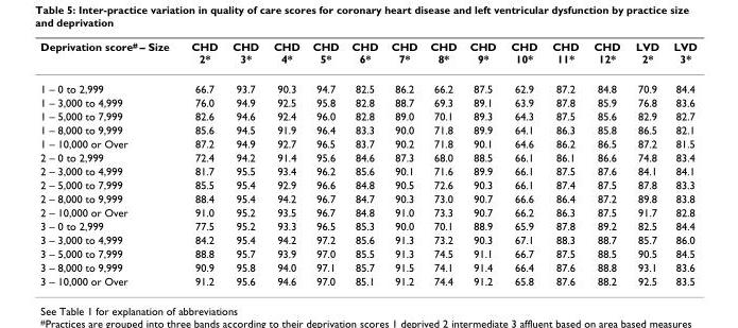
<table><thead><tr><td>Deprivation score<sup>#</sup> – Size</td><td>CHD 2*</td><td>CHD 3*</td><td>CHD 4*</td><td>CHD 5*</td><td>CHD 6*</td><td>CHD 7*</td><td>CHD 8*</td><td>CHD 9*</td><td>CHD 10*</td><td>CHD 11*</td><td>CHD 12*</td><td>LVD 2*</td><td>LVD 3*</td></tr></thead><tbody><tr><td>1 – 0 to 2,999</td><td>66.7</td><td>93.7</td><td>90.3</td><td>94.7</td><td>82.5</td><td>86.2</td><td>66.2</td><td>87.5</td><td>62.9</td><td>87.2</td><td>84.8</td><td>70.9</td><td>84.4</td></tr><tr><td>1 – 3,000 to 4,999</td><td>76.0</td><td>94.9</td><td>92.5</td><td>95.8</td><td>82.8</td><td>88.7</td><td>69.3</td><td>89.1</td><td>63.9</td><td>87.8</td><td>85.9</td><td>76.8</td><td>83.6</td></tr><tr><td>1 – 5,000 to 7,999</td><td>82.6</td><td>94.6</td><td>92.4</td><td>96.0</td><td>82.8</td><td>89.0</td><td>70.1</td><td>89.3</td><td>64.3</td><td>87.5</td><td>85.6</td><td>82.9</td><td>82.7</td></tr><tr><td>1 – 8,000 to 9,999</td><td>85.6</td><td>94.5</td><td>91.9</td><td>96.4</td><td>83.3</td><td>90.0</td><td>71.8</td><td>89.9</td><td>64.1</td><td>86.3</td><td>85.8</td><td>86.5</td><td>82.1</td></tr><tr><td>1 – 10,000 or Over</td><td>87.2</td><td>94.9</td><td>92.7</td><td>96.5</td><td>83.7</td><td>90.2</td><td>71.8</td><td>90.1</td><td>64.6</td><td>86.2</td><td>86.5</td><td>87.2</td><td>81.5</td></tr><tr><td>2 – 0 to 2,999</td><td>72.4</td><td>94.2</td><td>91.4</td><td>95.6</td><td>84.6</td><td>87.3</td><td>68.0</td><td>88.5</td><td>66.1</td><td>86.1</td><td>86.6</td><td>74.8</td><td>83.4</td></tr><tr><td>2 – 3,000 to 4,999</td><td>81.7</td><td>95.5</td><td>93.4</td><td>96.2</td><td>85.6</td><td>90.1</td><td>71.6</td><td>89.9</td><td>66.1</td><td>87.5</td><td>87.6</td><td>84.1</td><td>84.1</td></tr><tr><td>2 – 5,000 to 7,999</td><td>85.5</td><td>95.4</td><td>92.9</td><td>96.6</td><td>84.8</td><td>90.5</td><td>72.6</td><td>90.3</td><td>66.1</td><td>87.4</td><td>87.5</td><td>87.8</td><td>83.3</td></tr><tr><td>2 – 8,000 to 9,999</td><td>88.4</td><td>95.4</td><td>94.2</td><td>96.7</td><td>84.7</td><td>90.3</td><td>73.0</td><td>90.7</td><td>66.6</td><td>86.4</td><td>87.2</td><td>89.8</td><td>83.8</td></tr><tr><td>2 – 10,000 or Over</td><td>91.0</td><td>95.2</td><td>93.5</td><td>96.7</td><td>84.8</td><td>91.0</td><td>73.3</td><td>90.7</td><td>66.2</td><td>86.3</td><td>87.5</td><td>91.7</td><td>82.8</td></tr><tr><td>3 – 0 to 2,999</td><td>77.5</td><td>95.2</td><td>93.3</td><td>96.5</td><td>85.3</td><td>90.0</td><td>70.1</td><td>88.9</td><td>65.9</td><td>87.8</td><td>89.2</td><td>82.5</td><td>84.4</td></tr><tr><td>3 – 3,000 to 4,999</td><td>84.2</td><td>95.4</td><td>94.2</td><td>97.2</td><td>85.6</td><td>91.3</td><td>73.2</td><td>90.3</td><td>67.1</td><td>88.3</td><td>88.7</td><td>85.7</td><td>86.0</td></tr><tr><td>3 – 5,000 to 7,999</td><td>88.8</td><td>95.7</td><td>93.9</td><td>97.0</td><td>85.5</td><td>91.3</td><td>74.5</td><td>91.1</td><td>66.7</td><td>87.5</td><td>88.5</td><td>90.5</td><td>84.5</td></tr><tr><td>3 – 8,000 to 9,999</td><td>90.9</td><td>95.8</td><td>94.0</td><td>97.1</td><td>85.7</td><td>91.5</td><td>74.1</td><td>91.4</td><td>66.4</td><td>87.6</td><td>88.8</td><td>93.1</td><td>83.6</td></tr><tr><td>3 – 10,000 or Over</td><td>91.2</td><td>95.6</td><td>94.6</td><td>97.0</td><td>85.1</td><td>91.2</td><td>74.4</td><td>91.2</td><td>65.8</td><td>87.6</td><td>88.2</td><td>92.5</td><td>83.5</td></tr></tbody></table>